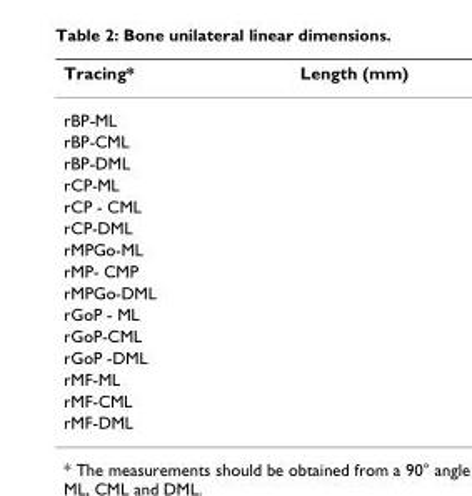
<table><thead><tr><td>Tracing*</td><td>Length (mm)</td></tr></thead><tbody><tr><td colspan="2">rBP-ML</td></tr><tr><td colspan="2">rBP-CML</td></tr><tr><td colspan="2">rBP-DML</td></tr><tr><td colspan="2">rCP-ML</td></tr><tr><td colspan="2">rCP - CML</td></tr><tr><td colspan="2">rCP-DML</td></tr><tr><td colspan="2">rMPGo-ML</td></tr><tr><td colspan="2">rMP- CMP</td></tr><tr><td colspan="2">rMPGo-DML</td></tr><tr><td colspan="2">rGoP - ML</td></tr><tr><td colspan="2">rGoP-CML</td></tr><tr><td colspan="2">rGoP -DML</td></tr><tr><td colspan="2">rMF-ML</td></tr><tr><td colspan="2">rMF-CML</td></tr><tr><td>rMF-DML</td><td></td></tr></tbody></table>